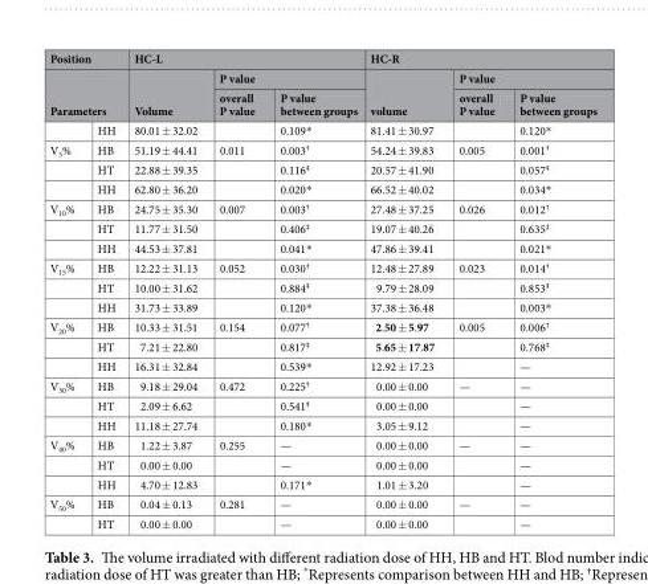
<table><thead><tr><td rowspan="3" colspan="2">Position Parameters</td><td colspan="3">HC-L</td><td colspan="3">HC-R</td></tr><tr><td rowspan="3">Volume 80.01 ± 32.02</td><td colspan="2">P value</td><td rowspan="3">volume 81.41 ± 30.97</td><td colspan="2">P value</td></tr><tr><td rowspan="2">overall P value</td><td rowspan="2">P value between groups 0.109*</td><td rowspan="2">overall P value</td><td rowspan="2">P value between groups 0.120*</td></tr><tr><td></td><td>HH</td></tr></thead><tbody><tr><td rowspan="3">V<sub>5</sub>%</td><td>HB</td><td>51.19 ± 44.41</td><td>0.011</td><td>0.003<sup>†</sup></td><td>54.24 ± 39.83</td><td>0.005</td><td>0.001<sup>†</sup></td></tr><tr><td>HT</td><td>22.88 ± 39.35</td><td></td><td>0.116<sup>‡</sup></td><td>20.57 ± 41.90</td><td></td><td>0.057<sup>‡</sup></td></tr><tr><td>HH</td><td>62.80 ± 36.20</td><td></td><td>0.020*</td><td>66.52 ± 40.02</td><td></td><td>0.034*</td></tr><tr><td rowspan="3">V<sub>10</sub>%</td><td>HB</td><td>24.75 ± 35.30</td><td>0.007</td><td>0.003<sup>†</sup></td><td>27.48 ± 37.25</td><td>0.026</td><td>0.012<sup>†</sup></td></tr><tr><td>HT</td><td>11.77 ± 31.50</td><td></td><td>0.406<sup>‡</sup></td><td>19.07 ± 40.26</td><td></td><td>0.635<sup>‡</sup></td></tr><tr><td>HH</td><td>44.53 ± 37.81</td><td></td><td>0.041*</td><td>47.86 ± 39.41</td><td></td><td>0.021*</td></tr><tr><td rowspan="3">V<sub>15</sub>%</td><td>HB</td><td>12.22 ± 31.13</td><td>0.052</td><td>0.030<sup>†</sup></td><td>12.48 ± 27.89</td><td>0.023</td><td>0.014<sup>†</sup></td></tr><tr><td>HT</td><td>10.00 ± 31.62</td><td></td><td>0.884<sup>‡</sup></td><td>9.79 ± 28.09</td><td></td><td>0.853<sup>‡</sup></td></tr><tr><td>HH</td><td>31.73 ± 33.89</td><td></td><td>0.120*</td><td>37.38 ± 36.48</td><td></td><td>0.003*</td></tr><tr><td rowspan="3">V<sub>20</sub>%</td><td>HB</td><td>10.33 ± 31.51</td><td>0.154</td><td>0.077<sup>†</sup></td><td>2.50 ± 5.97</td><td>0.005</td><td>0.006<sup>†</sup></td></tr><tr><td>HT</td><td>7.21 ± 22.80</td><td></td><td>0.817<sup>‡</sup></td><td>5.65 ± 17.87</td><td></td><td>0.768<sup>‡</sup></td></tr><tr><td>HH</td><td>16.31 ± 32.84</td><td></td><td>0.539*</td><td>12.92 ± 17.23</td><td></td><td>—</td></tr><tr><td rowspan="3">V<sub>30</sub>%</td><td>HB</td><td>9.18 ± 29.04</td><td>0.472</td><td>0.225<sup>†</sup></td><td>0.00 ± 0.00</td><td>—</td><td>—</td></tr><tr><td>HT</td><td>2.09 ± 6.62</td><td></td><td>0.541<sup>‡</sup></td><td>0.00 ± 0.00</td><td></td><td>—</td></tr><tr><td>HH</td><td>11.18 ± 27.74</td><td></td><td>0.180*</td><td>3.05 ± 9.12</td><td></td><td>—</td></tr><tr><td rowspan="3">V<sub>40</sub>%</td><td>HB</td><td>1.22 ± 3.87</td><td>0.255</td><td>—</td><td>0.00 ± 0.00</td><td>—</td><td>—</td></tr><tr><td>HT</td><td>0.00 ± 0.00</td><td></td><td>—</td><td>0.00 ± 0.00</td><td></td><td>—</td></tr><tr><td>HH</td><td>4.70 ± 12.83</td><td></td><td>0.171*</td><td>1.01 ± 3.20</td><td></td><td>—</td></tr><tr><td rowspan="2">V<sub>50</sub>%</td><td>HB</td><td>0.04 ± 0.13</td><td>0.281</td><td>—</td><td>0.00 ± 0.00</td><td>—</td><td>—</td></tr><tr><td>HT</td><td>0.00 ± 0.00</td><td></td><td>—</td><td>0.00 ± 0.00</td><td></td><td>—</td></tr></tbody></table>